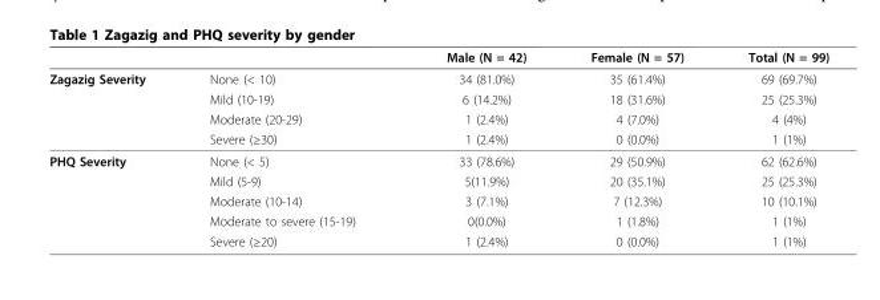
<table><thead><tr><td></td><td></td><td>Male (N = 42)</td><td>Female (N = 57)</td><td>Total (N = 99)</td></tr></thead><tbody><tr><td rowspan="4">Zagazig Severity</td><td>None (&lt; 10)</td><td>34 (81.0%)</td><td>35 (61.4%)</td><td>69 (69.7%)</td></tr><tr><td>Mild (10-19)</td><td>6 (14.2%)</td><td>18 (31.6%)</td><td>25 (25.3%)</td></tr><tr><td>Moderate (20-29)</td><td>1 (2.4%)</td><td>4 (7.0%)</td><td>4 (4%)</td></tr><tr><td>Severe (≥30)</td><td>1 (2.4%)</td><td>0 (0.0%)</td><td>1 (1%)</td></tr><tr><td rowspan="5">PHQ Severity</td><td>None (&lt; 5)</td><td>33 (78.6%)</td><td>29 (50.9%)</td><td>62 (62.6%)</td></tr><tr><td>Mild (5-9)</td><td>5(11.9%)</td><td>20 (35.1%)</td><td>25 (25.3%)</td></tr><tr><td>Moderate (10-14)</td><td>3 (7.1%)</td><td>7 (12.3%)</td><td>10 (10.1%)</td></tr><tr><td>Moderate to severe (15-19)</td><td>0(0.0%)</td><td>1 (1.8%)</td><td>1 (1%)</td></tr><tr><td>Severe (≥20)</td><td>1 (2.4%)</td><td>0 (0.0%)</td><td>1 (1%)</td></tr></tbody></table>